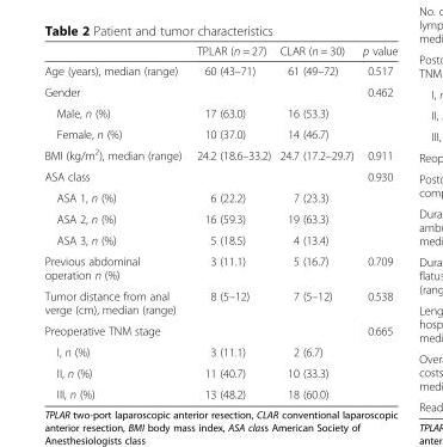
<table><thead><tr><td></td><td>TPLAR (n = 27)</td><td>CLAR (n = 30)</td><td>p value</td></tr></thead><tbody><tr><td>Age (years), median (range)</td><td>60 (43–71)</td><td>61 (49–72)</td><td>0.517</td></tr><tr><td>Gender</td><td></td><td></td><td>0.462</td></tr><tr><td>Male, n (%)</td><td>17 (63.0)</td><td>16 (53.3)</td><td></td></tr><tr><td>Female, n (%)</td><td>10 (37.0)</td><td>14 (46.7)</td><td></td></tr><tr><td>BMI (kg/m<sup>2</sup>), median (range)</td><td>24.2 (18.6–33.2)</td><td>24.7 (17.2–29.7)</td><td>0.911</td></tr><tr><td>ASA class</td><td></td><td></td><td>0.930</td></tr><tr><td>ASA 1, n (%)</td><td>6 (22.2)</td><td>7 (23.3)</td><td></td></tr><tr><td>ASA 2, n (%)</td><td>16 (59.3)</td><td>19 (63.3)</td><td></td></tr><tr><td>ASA 3, n (%)</td><td>5 (18.5)</td><td>4 (13.4)</td><td></td></tr><tr><td>Previous abdominal operation n (%)</td><td>3 (11.1)</td><td>5 (16.7)</td><td>0.709</td></tr><tr><td>Tumor distance from anal verge (cm), median (range)</td><td>8 (5–12)</td><td>7 (5–12)</td><td>0.538</td></tr><tr><td>Preoperative TNM stage</td><td></td><td></td><td>0.665</td></tr><tr><td>I, n (%)</td><td>3 (11.1)</td><td>2 (6.7)</td><td></td></tr><tr><td>II, n (%)</td><td>11 (40.7)</td><td>10 (33.3)</td><td></td></tr><tr><td>III, n (%)</td><td>13 (48.2)</td><td>18 (60.0)</td><td></td></tr></tbody></table>